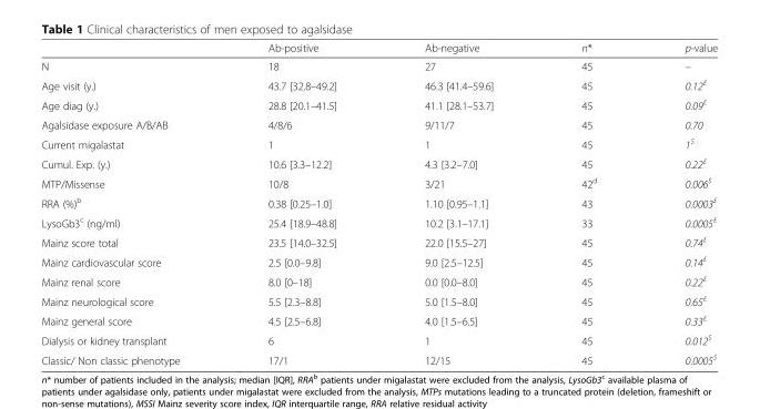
<table><thead><tr><td></td><td>Ab-positive</td><td>Ab-negative</td><td>n*</td><td>p-value</td></tr></thead><tbody><tr><td>N</td><td>18</td><td>27</td><td>45</td><td>–</td></tr><tr><td>Age visit (y.)</td><td>43.7 [32.8–49.2]</td><td>46.3 [41.4–59.6]</td><td>45</td><td>0.12<sup>£</sup></td></tr><tr><td>Age diag (y.)</td><td>28.8 [20.1–41.5]</td><td>41.1 [28.1–53.7]</td><td>45</td><td>0.09<sup>£</sup></td></tr><tr><td>Agalsidase exposure A/B/AB</td><td>4/8/6</td><td>9/11/7</td><td>45</td><td>0.70</td></tr><tr><td>Current migalastat</td><td>1</td><td>1</td><td>45</td><td>1<sup>$</sup></td></tr><tr><td>Cumul. Exp. (y.)</td><td>10.6 [3.3–12.2]</td><td>4.3 [3.2–7.0]</td><td>45</td><td>0.22<sup>£</sup></td></tr><tr><td>MTP/Missense</td><td>10/8</td><td>3/21</td><td>42<sup>d</sup></td><td>0.006<sup>$</sup></td></tr><tr><td>RRA (%)<sup>b</sup></td><td>0.38 [0.25–1.0]</td><td>1.10 [0.95–1.1]</td><td>43</td><td>0.0003<sup>£</sup></td></tr><tr><td>LysoGb3<sup>c</sup> (ng/ml)</td><td>25.4 [18.9–48.8]</td><td>10.2 [3.1–17.1]</td><td>33</td><td>0.0005<sup>£</sup></td></tr><tr><td>Mainz score total</td><td>23.5 [14.0–32.5]</td><td>22.0 [15.5–27]</td><td>45</td><td>0.74<sup>£</sup></td></tr><tr><td>Mainz cardiovascular score</td><td>2.5 [0.0–9.8]</td><td>9.0 [2.5–12.5]</td><td>45</td><td>0.14<sup>£</sup></td></tr><tr><td>Mainz renal score</td><td>8.0 [0–18]</td><td>0.0 [0.0–8.0]</td><td>45</td><td>0.22<sup>£</sup></td></tr><tr><td>Mainz neurological score</td><td>5.5 [2.3–8.8]</td><td>5.0 [1.5–8.0]</td><td>45</td><td>0.65<sup>£</sup></td></tr><tr><td>Mainz general score</td><td>4.5 [2.5–6.8]</td><td>4.0 [1.5–6.5]</td><td>45</td><td>0.33<sup>£</sup></td></tr><tr><td>Dialysis or kidney transplant</td><td>6</td><td>1</td><td>45</td><td>0.012<sup>$</sup></td></tr><tr><td>Classic/ Non classic phenotype</td><td>17/1</td><td>12/15</td><td>45</td><td>0.0005<sup>$</sup></td></tr></tbody></table>